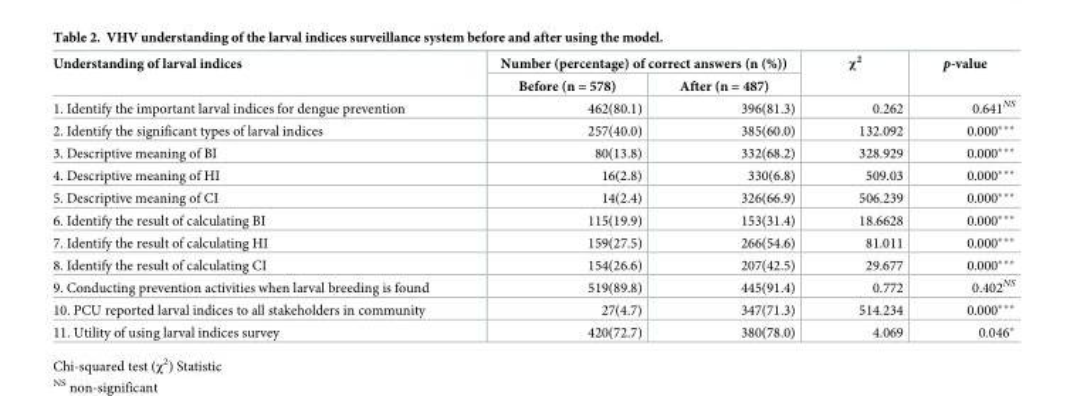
<table><thead><tr><td rowspan="2">Understanding of larval indices</td><td colspan="2">Number (percentage) of correct answers (n (%))</td><td rowspan="2">χ<sup>2</sup></td><td rowspan="2">p-value</td></tr><tr><td>Before (n = 578)</td><td>After (n = 487)</td></tr></thead><tbody><tr><td>1. Identify the important larval indices for dengue prevention</td><td>462(80.1)</td><td>396(81.3)</td><td>0.262</td><td>0.641<sup>NS</sup></td></tr><tr><td>2. Identify the significant types of larval indices</td><td>257(40.0)</td><td>385(60.0)</td><td>132.092</td><td>0.000***</td></tr><tr><td>3. Descriptive meaning of BI</td><td>80(13.8)</td><td>332(68.2)</td><td>328.929</td><td>0.000***</td></tr><tr><td>4. Descriptive meaning of HI</td><td>16(2.8)</td><td>330(6.8)</td><td>509.03</td><td>0.000***</td></tr><tr><td>5. Descriptive meaning of CI</td><td>14(2.4)</td><td>326(66.9)</td><td>506.239</td><td>0.000***</td></tr><tr><td>6. Identify the result of calculating BI</td><td>115(19.9)</td><td>153(31.4)</td><td>18.6628</td><td>0.000***</td></tr><tr><td>7. Identify the result of calculating HI</td><td>159(27.5)</td><td>266(54.6)</td><td>81.011</td><td>0.000***</td></tr><tr><td>8. Identify the result of calculating CI</td><td>154(26.6)</td><td>207(42.5)</td><td>29.677</td><td>0.000***</td></tr><tr><td>9. Conducting prevention activities when larval breeding is found</td><td>519(89.8)</td><td>445(91.4)</td><td>0.772</td><td>0.402<sup>NS</sup></td></tr><tr><td>10. PCU reported larval indices to all stakeholders in community</td><td>27(4.7)</td><td>347(71.3)</td><td>514.234</td><td>0.000***</td></tr><tr><td>11. Utility of using larval indices survey</td><td>420(72.7)</td><td>380(78.0)</td><td>4.069</td><td>0.046*</td></tr></tbody></table>